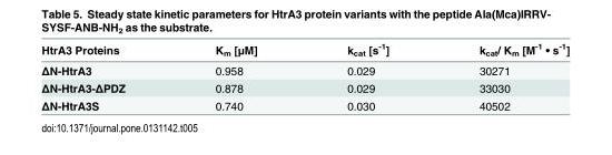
<table><thead><tr><td>HtrA3 Proteins</td><td>K<sub>m</sub> [μM]</td><td>k<sub>cat</sub> [s<sup>-1</sup>]</td><td>k<sub>cat</sub>/ K<sub>m</sub> [M<sup>-1</sup> • s<sup>-1</sup>]</td></tr></thead><tbody><tr><td>ΔN-HtrA3</td><td>0.958</td><td>0.029</td><td>30271</td></tr><tr><td>ΔN-HtrA3-ΔPDZ</td><td>0.878</td><td>0.029</td><td>33030</td></tr><tr><td>ΔN-HtrA3S</td><td>0.740</td><td>0.030</td><td>40502</td></tr></tbody></table>